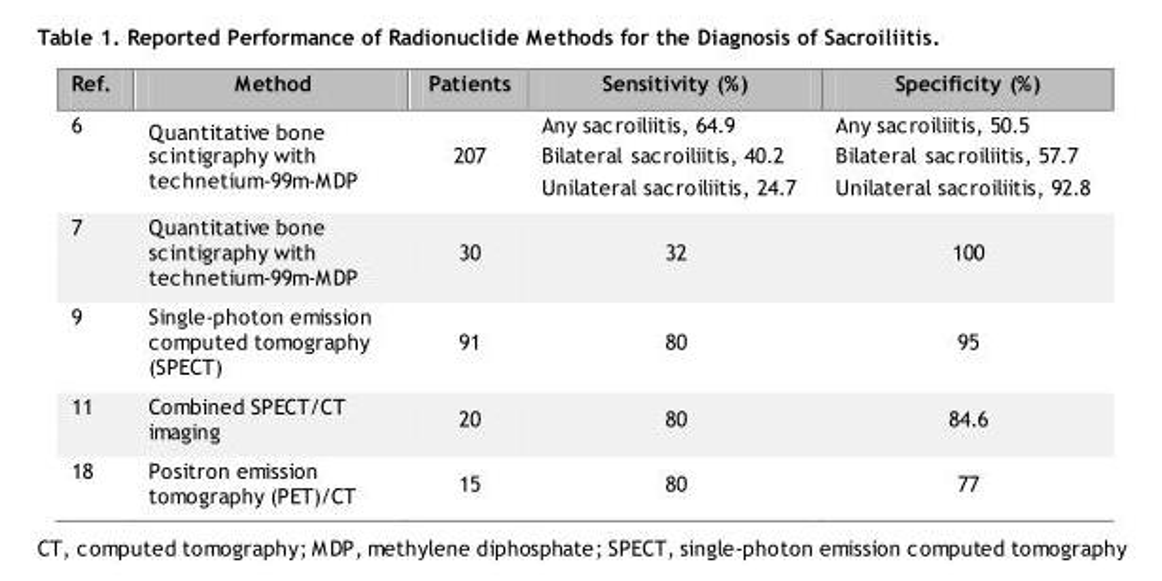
<table><thead><tr><td>Ref.</td><td>Method</td><td>Patients</td><td>Sensitivity (%)</td><td>Specificity (%)</td></tr></thead><tbody><tr><td>6</td><td>Quantitative bone scintigraphy with technetium-99m-MDP</td><td>207</td><td>Any sacroiliitis, 64.9 Bilateral sacroiliitis, 40.2 Unilateral sacroiliitis, 24.7</td><td>Any sacroiliitis, 50.5 Bilateral sacroiliitis, 57.7 Unilateral sacroiliitis, 92.8</td></tr><tr><td>7</td><td>Quantitative bone scintigraphy with technetium-99m-MDP</td><td>30</td><td>32</td><td>100</td></tr><tr><td>9</td><td>Single-photon emission computed tomography (SPECT)</td><td>91</td><td>80</td><td>95</td></tr><tr><td>11</td><td>Combined SPECT/CT imaging</td><td>20</td><td>80</td><td>84.6</td></tr><tr><td>18</td><td>Positron emission tomography (PET)/CT</td><td>15</td><td>80</td><td>77</td></tr></tbody></table>